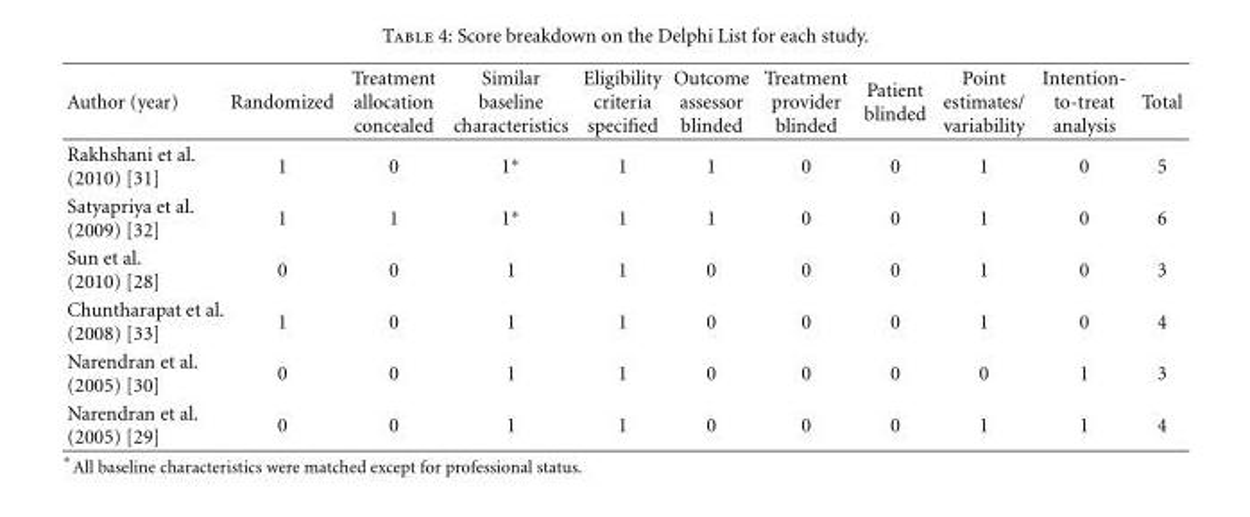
<table><thead><tr><td>Author (year)</td><td>Randomized</td><td>Treatment allocation concealed</td><td>Similar baseline characteristics</td><td>Eligibility criteria specified</td><td>Outcome assessor blinded</td><td>Treatment provider blinded</td><td>Patient blinded</td><td>Point estimates/ variability</td><td>Intention- to-treat analysis</td><td>Total</td></tr></thead><tbody><tr><td>Rakhshani et al. (2010) [31]</td><td>1</td><td>0</td><td>1∗</td><td>1</td><td>1</td><td>0</td><td>0</td><td>1</td><td>0</td><td>5</td></tr><tr><td>Satyapriya et al. (2009) [32]</td><td>1</td><td>1</td><td>1∗</td><td>1</td><td>1</td><td>0</td><td>0</td><td>1</td><td>0</td><td>6</td></tr><tr><td>Sun et al. (2010) [28]</td><td>0</td><td>0</td><td>1</td><td>1</td><td>0</td><td>0</td><td>0</td><td>1</td><td>0</td><td>3</td></tr><tr><td>Chuntharapat et al. (2008) [33]</td><td>1</td><td>0</td><td>1</td><td>1</td><td>0</td><td>0</td><td>0</td><td>1</td><td>0</td><td>4</td></tr><tr><td>Narendran et al. (2005) [30]</td><td>0</td><td>0</td><td>1</td><td>1</td><td>0</td><td>0</td><td>0</td><td>0</td><td>1</td><td>3</td></tr><tr><td>Narendran et al. (2005) [29]</td><td>0</td><td>0</td><td>1</td><td>1</td><td>0</td><td>0</td><td>0</td><td>1</td><td>1</td><td>4</td></tr></tbody></table>